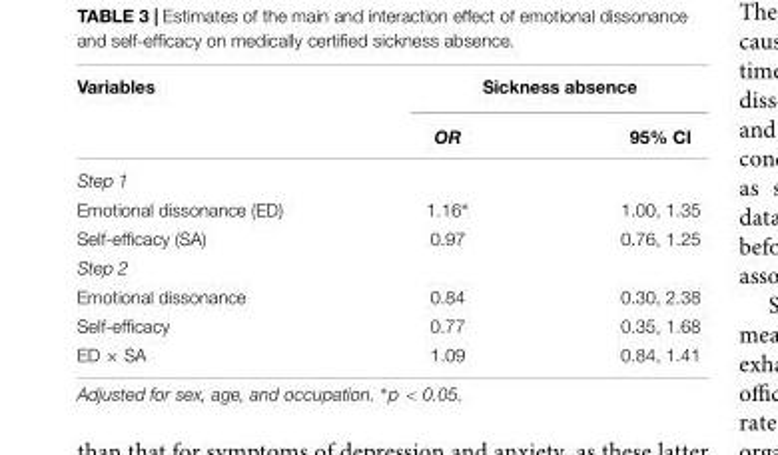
<table><thead><tr><td rowspan="2">Variables</td><td colspan="2">Sickness absence</td></tr><tr><td>OR</td><td>95% CI</td></tr></thead><tbody><tr><td colspan="3">Step 1</td></tr><tr><td>Emotional dissonance (ED)</td><td>1.16∗</td><td>1.00, 1.35</td></tr><tr><td>Self-efficacy (SA)</td><td>0.97</td><td>0.76, 1.25</td></tr><tr><td colspan="3">Step 2</td></tr><tr><td>Emotional dissonance</td><td>0.84</td><td>0.30, 2.38</td></tr><tr><td>Self-efficacy</td><td>0.77</td><td>0.35, 1.68</td></tr><tr><td>ED × SA</td><td>1.09</td><td>0.84, 1.41</td></tr></tbody></table>